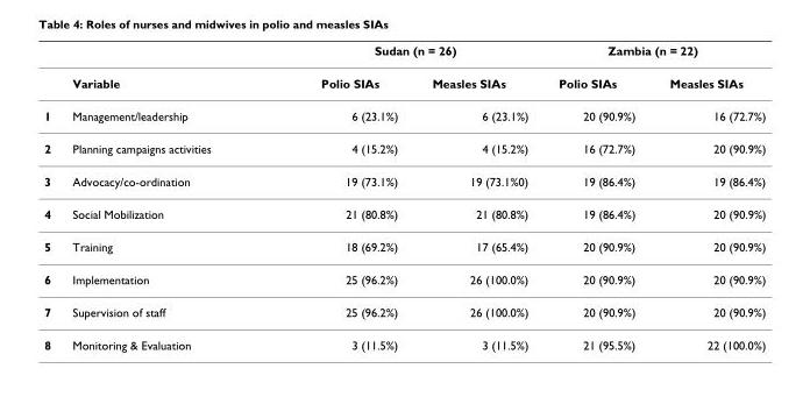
<table><thead><tr><td rowspan="2"></td><td rowspan="2">Variable</td><td colspan="2">Sudan (n = 26)</td><td colspan="2">Zambia (n = 22)</td></tr><tr><td>Polio SIAs</td><td>Measles SIAs</td><td>Polio SIAs</td><td>Measles SIAs</td></tr></thead><tbody><tr><td>1</td><td>Management/leadership</td><td>6 (23.1%)</td><td>6 (23.1%)</td><td>20 (90.9%)</td><td>16 (72.7%)</td></tr><tr><td>2</td><td>Planning campaigns activities</td><td>4 (15.2%)</td><td>4 (15.2%)</td><td>16 (72.7%)</td><td>20 (90.9%)</td></tr><tr><td>3</td><td>Advocacy/co-ordination</td><td>19 (73.1%)</td><td>19 (73.1%0)</td><td>19 (86.4%)</td><td>19 (86.4%)</td></tr><tr><td>4</td><td>Social Mobilization</td><td>21 (80.8%)</td><td>21 (80.8%)</td><td>19 (86.4%)</td><td>20 (90.9%)</td></tr><tr><td>5</td><td>Training</td><td>18 (69.2%)</td><td>17 (65.4%)</td><td>20 (90.9%)</td><td>20 (90.9%)</td></tr><tr><td>6</td><td>Implementation</td><td>25 (96.2%)</td><td>26 (100.0%)</td><td>20 (90.9%)</td><td>20 (90.9%)</td></tr><tr><td>7</td><td>Supervision of staff</td><td>25 (96.2%)</td><td>26 (100.0%)</td><td>20 (90.9%)</td><td>20 (90.9%)</td></tr><tr><td>8</td><td>Monitoring &amp; Evaluation</td><td>3 (11.5%)</td><td>3 (11.5%)</td><td>21 (95.5%)</td><td>22 (100.0%)</td></tr></tbody></table>